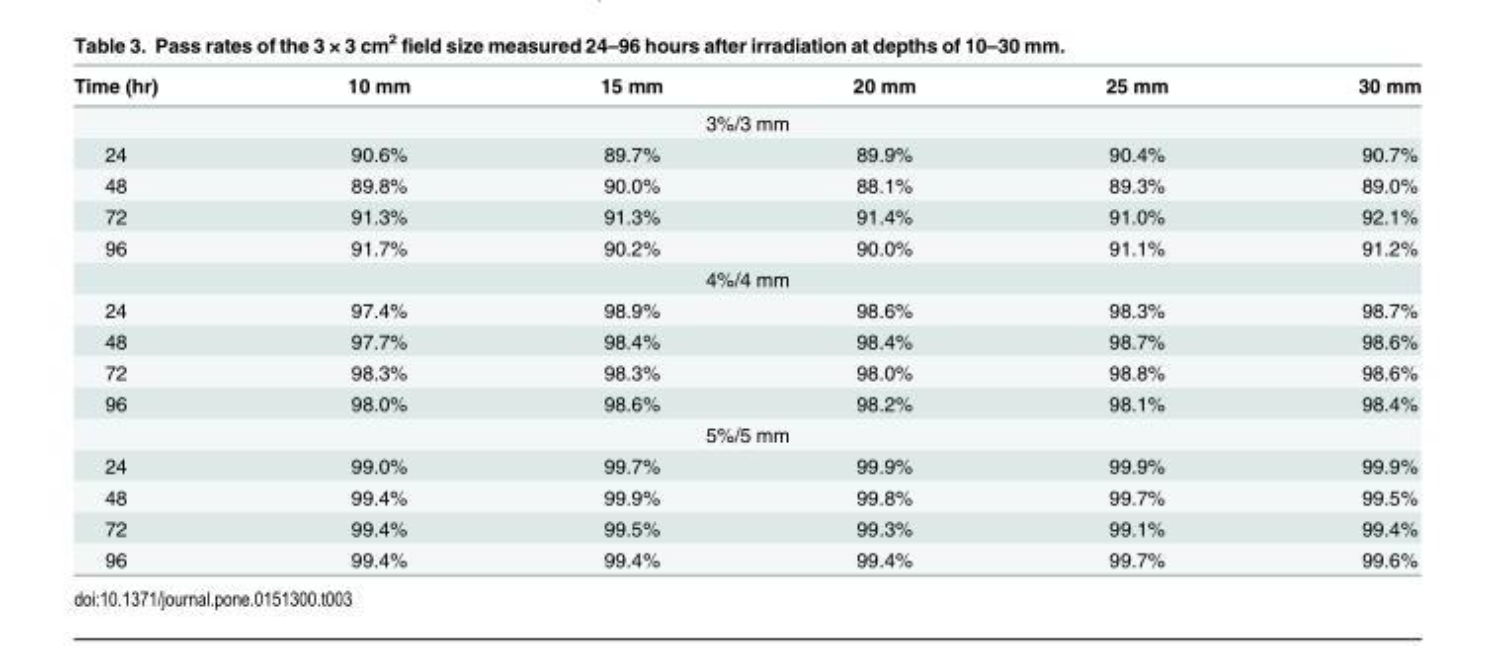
<table><thead><tr><td>Time (hr)</td><td>10 mm</td><td>15 mm</td><td>20 mm</td><td>25 mm</td><td>30 mm</td></tr></thead><tbody><tr><td colspan="6">3%/3 mm</td></tr><tr><td>24</td><td>90.6%</td><td>89.7%</td><td>89.9%</td><td>90.4%</td><td>90.7%</td></tr><tr><td>48</td><td>89.8%</td><td>90.0%</td><td>88.1%</td><td>89.3%</td><td>89.0%</td></tr><tr><td>72</td><td>91.3%</td><td>91.3%</td><td>91.4%</td><td>91.0%</td><td>92.1%</td></tr><tr><td>96</td><td>91.7%</td><td>90.2%</td><td>90.0%</td><td>91.1%</td><td>91.2%</td></tr><tr><td colspan="6">4%/4 mm</td></tr><tr><td>24</td><td>97.4%</td><td>98.9%</td><td>98.6%</td><td>98.3%</td><td>98.7%</td></tr><tr><td>48</td><td>97.7%</td><td>98.4%</td><td>98.4%</td><td>98.7%</td><td>98.6%</td></tr><tr><td>72</td><td>98.3%</td><td>98.3%</td><td>98.0%</td><td>98.8%</td><td>98.6%</td></tr><tr><td>96</td><td>98.0%</td><td>98.6%</td><td>98.2%</td><td>98.1%</td><td>98.4%</td></tr><tr><td colspan="6">5%/5 mm</td></tr><tr><td>24</td><td>99.0%</td><td>99.7%</td><td>99.9%</td><td>99.9%</td><td>99.9%</td></tr><tr><td>48</td><td>99.4%</td><td>99.9%</td><td>99.8%</td><td>99.7%</td><td>99.5%</td></tr><tr><td>72</td><td>99.4%</td><td>99.5%</td><td>99.3%</td><td>99.1%</td><td>99.4%</td></tr><tr><td>96</td><td>99.4%</td><td>99.4%</td><td>99.4%</td><td>99.7%</td><td>99.6%</td></tr></tbody></table>